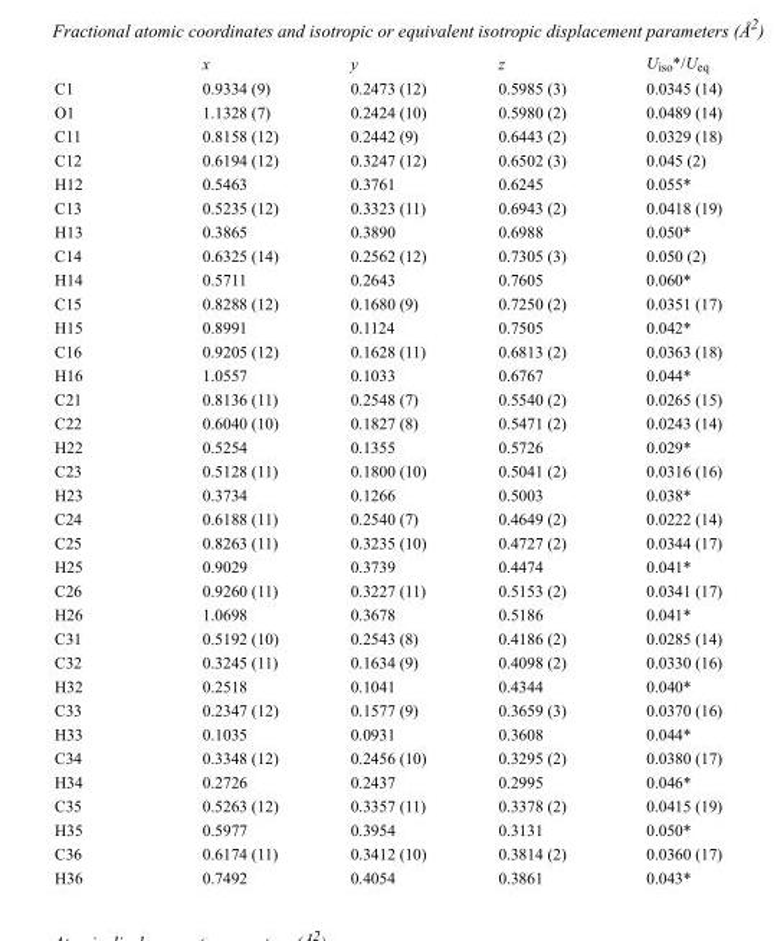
<table><thead><tr><td></td><td>x</td><td>y</td><td>z</td><td>U<sub>iso</sub>*/U<sub>eq</sub></td></tr></thead><tbody><tr><td>C1</td><td>0.9334 (9)</td><td>0.2473 (12)</td><td>0.5985 (3)</td><td>0.0345 (14)</td></tr><tr><td>O1</td><td>1.1328 (7)</td><td>0.2424 (10)</td><td>0.5980 (2)</td><td>0.0489 (14)</td></tr><tr><td>C11</td><td>0.8158 (12)</td><td>0.2442 (9)</td><td>0.6443 (2)</td><td>0.0329 (18)</td></tr><tr><td>C12</td><td>0.6194 (12)</td><td>0.3247 (12)</td><td>0.6502 (3)</td><td>0.045 (2)</td></tr><tr><td>H12</td><td>0.5463</td><td>0.3761</td><td>0.6245</td><td>0.055*</td></tr><tr><td>C13</td><td>0.5235 (12)</td><td>0.3323 (11)</td><td>0.6943 (2)</td><td>0.0418 (19)</td></tr><tr><td>H13</td><td>0.3865</td><td>0.3890</td><td>0.6988</td><td>0.050*</td></tr><tr><td>C14</td><td>0.6325 (14)</td><td>0.2562 (12)</td><td>0.7305 (3)</td><td>0.050 (2)</td></tr><tr><td>H14</td><td>0.5711</td><td>0.2643</td><td>0.7605</td><td>0.060*</td></tr><tr><td>C15</td><td>0.8288 (12)</td><td>0.1680 (9)</td><td>0.7250 (2)</td><td>0.0351 (17)</td></tr><tr><td>H15</td><td>0.8991</td><td>0.1124</td><td>0.7505</td><td>0.042*</td></tr><tr><td>C16</td><td>0.9205 (12)</td><td>0.1628 (11)</td><td>0.6813 (2)</td><td>0.0363 (18)</td></tr><tr><td>H16</td><td>1.0557</td><td>0.1033</td><td>0.6767</td><td>0.044*</td></tr><tr><td>C21</td><td>0.8136 (11)</td><td>0.2548 (7)</td><td>0.5540 (2)</td><td>0.0265 (15)</td></tr><tr><td>C22</td><td>0.6040 (10)</td><td>0.1827 (8)</td><td>0.5471 (2)</td><td>0.0243 (14)</td></tr><tr><td>H22</td><td>0.5254</td><td>0.1355</td><td>0.5726</td><td>0.029*</td></tr><tr><td>C23</td><td>0.5128 (11)</td><td>0.1800 (10)</td><td>0.5041 (2)</td><td>0.0316 (16)</td></tr><tr><td>H23</td><td>0.3734</td><td>0.1266</td><td>0.5003</td><td>0.038*</td></tr><tr><td>C24</td><td>0.6188 (11)</td><td>0.2540 (7)</td><td>0.4649 (2)</td><td>0.0222 (14)</td></tr><tr><td>C25</td><td>0.8263 (11)</td><td>0.3235 (10)</td><td>0.4727 (2)</td><td>0.0344 (17)</td></tr><tr><td>H25</td><td>0.9029</td><td>0.3739</td><td>0.4474</td><td>0.041*</td></tr><tr><td>C26</td><td>0.9260 (11)</td><td>0.3227 (11)</td><td>0.5153 (2)</td><td>0.0341 (17)</td></tr><tr><td>H26</td><td>1.0698</td><td>0.3678</td><td>0.5186</td><td>0.041*</td></tr><tr><td>C31</td><td>0.5192 (10)</td><td>0.2543 (8)</td><td>0.4186 (2)</td><td>0.0285 (14)</td></tr><tr><td>C32</td><td>0.3245 (11)</td><td>0.1634 (9)</td><td>0.4098 (2)</td><td>0.0330 (16)</td></tr><tr><td>H32</td><td>0.2518</td><td>0.1041</td><td>0.4344</td><td>0.040*</td></tr><tr><td>C33</td><td>0.2347 (12)</td><td>0.1577 (9)</td><td>0.3659 (3)</td><td>0.0370 (16)</td></tr><tr><td>H33</td><td>0.1035</td><td>0.0931</td><td>0.3608</td><td>0.044*</td></tr><tr><td>C34</td><td>0.3348 (12)</td><td>0.2456 (10)</td><td>0.3295 (2)</td><td>0.0380 (17)</td></tr><tr><td>H34</td><td>0.2726</td><td>0.2437</td><td>0.2995</td><td>0.046*</td></tr><tr><td>C35</td><td>0.5263 (12)</td><td>0.3357 (11)</td><td>0.3378 (2)</td><td>0.0415 (19)</td></tr><tr><td>H35</td><td>0.5977</td><td>0.3954</td><td>0.3131</td><td>0.050*</td></tr><tr><td>C36</td><td>0.6174 (11)</td><td>0.3412 (10)</td><td>0.3814 (2)</td><td>0.0360 (17)</td></tr><tr><td>H36</td><td>0.7492</td><td>0.4054</td><td>0.3861</td><td>0.043*</td></tr></tbody></table>